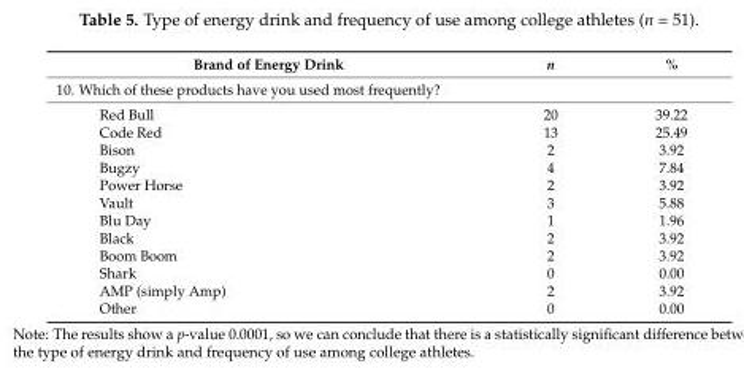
<table><thead><tr><td>Brand of Energy Drink</td><td>n</td><td>%</td></tr></thead><tbody><tr><td colspan="3">10. Which of these products have you used most frequently?</td></tr><tr><td>Red Bull</td><td>20</td><td>39.22</td></tr><tr><td>Code Red</td><td>13</td><td>25.49</td></tr><tr><td>Bison</td><td>2</td><td>3.92</td></tr><tr><td>Bugzy</td><td>4</td><td>7.84</td></tr><tr><td>Power Horse</td><td>2</td><td>3.92</td></tr><tr><td>Vault</td><td>3</td><td>5.88</td></tr><tr><td>Blu Day</td><td>1</td><td>1.96</td></tr><tr><td>Black</td><td>2</td><td>3.92</td></tr><tr><td>Boom Boom</td><td>2</td><td>3.92</td></tr><tr><td>Shark</td><td>0</td><td>0.00</td></tr><tr><td>AMP (simply Amp)</td><td>2</td><td>3.92</td></tr><tr><td>Other</td><td>0</td><td>0.00</td></tr></tbody></table>